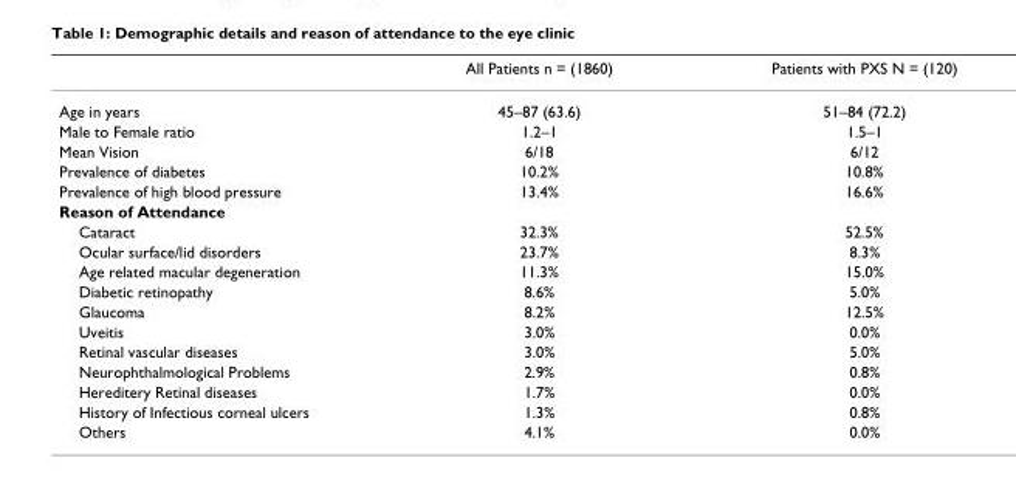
<table><thead><tr><td></td><td>All Patients n = (1860)</td><td>Patients with PXS N = (120)</td></tr></thead><tbody><tr><td>Age in years</td><td>45–87 (63.6)</td><td>51–84 (72.2)</td></tr><tr><td>Male to Female ratio</td><td>1.2–1</td><td>1.5–1</td></tr><tr><td>Mean Vision</td><td>6/18</td><td>6/12</td></tr><tr><td>Prevalence of diabetes</td><td>10.2%</td><td>10.8%</td></tr><tr><td>Prevalence of high blood pressure</td><td>13.4%</td><td>16.6%</td></tr><tr><td colspan="3">Reason of Attendance</td></tr><tr><td>Cataract</td><td>32.3%</td><td>52.5%</td></tr><tr><td>Ocular surface/lid disorders</td><td>23.7%</td><td>8.3%</td></tr><tr><td>Age related macular degeneration</td><td>11.3%</td><td>15.0%</td></tr><tr><td>Diabetic retinopathy</td><td>8.6%</td><td>5.0%</td></tr><tr><td>Glaucoma</td><td>8.2%</td><td>12.5%</td></tr><tr><td>Uveitis</td><td>3.0%</td><td>0.0%</td></tr><tr><td>Retinal vascular diseases</td><td>3.0%</td><td>5.0%</td></tr><tr><td>Neurophthalmological Problems</td><td>2.9%</td><td>0.8%</td></tr><tr><td>Hereditery Retinal diseases</td><td>1.7%</td><td>0.0%</td></tr><tr><td>History of Infectious corneal ulcers</td><td>1.3%</td><td>0.8%</td></tr><tr><td>Others</td><td>4.1%</td><td>0.0%</td></tr></tbody></table>